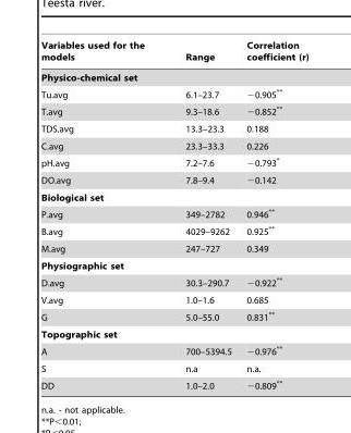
<table><thead><tr><td>Variables used for the models</td><td>Range</td><td>Correlation coefficient (r)</td></tr></thead><tbody><tr><td colspan="3">Physico-chemical set</td></tr><tr><td>Tu.avg</td><td>6.1–23.7</td><td>−0.905**</td></tr><tr><td>T.avg</td><td>9.3–18.6</td><td>−0.852**</td></tr><tr><td>TDS.avg</td><td>13.3–23.3</td><td>0.188</td></tr><tr><td>C.avg</td><td>23.3–33.3</td><td>0.226</td></tr><tr><td>pH.avg</td><td>7.2–7.6</td><td>−0.793*</td></tr><tr><td>DO.avg</td><td>7.8–9.4</td><td>−0.142</td></tr><tr><td colspan="3">Biological set</td></tr><tr><td>P.avg</td><td>349–2782</td><td>0.946**</td></tr><tr><td>B.avg</td><td>4029–9262</td><td>0.925**</td></tr><tr><td>M.avg</td><td>247–727</td><td>0.349</td></tr><tr><td colspan="3">Physiographic set</td></tr><tr><td>D.avg</td><td>30.3–290.7</td><td>−0.922**</td></tr><tr><td>V.avg</td><td>1.0–1.6</td><td>0.685</td></tr><tr><td>G</td><td>5.0–55.0</td><td>0.831**</td></tr><tr><td colspan="3">Topographic set</td></tr><tr><td>A</td><td>700–5394.5</td><td>−0.976**</td></tr><tr><td>S</td><td>n.a</td><td>n.a.</td></tr><tr><td>DD</td><td>1.0–2.0</td><td>−0.809**</td></tr></tbody></table>